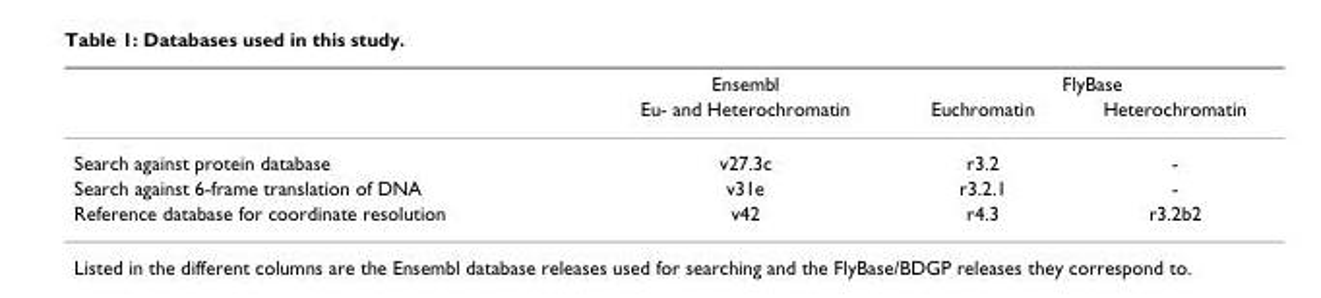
<table><thead><tr><td rowspan="2"></td><td rowspan="2">Ensembl Eu- and Heterochromatin</td><td colspan="2">FlyBase</td></tr><tr><td>Euchromatin</td><td>Heterochromatin</td></tr></thead><tbody><tr><td>Search against protein database</td><td>v27.3c</td><td>r3.2</td><td>-</td></tr><tr><td>Search against 6-frame translation of DNA</td><td>v31e</td><td>r3.2.1</td><td>-</td></tr><tr><td>Reference database for coordinate resolution</td><td>v42</td><td>r4.3</td><td>r3.2b2</td></tr></tbody></table>